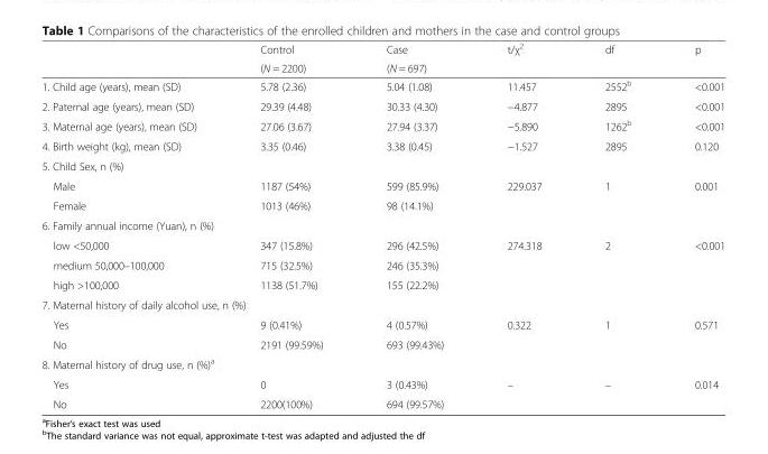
<table><thead><tr><td rowspan="2"></td><td rowspan="2">Control (N = 2200)</td><td rowspan="2">Case (N = 697)</td><td rowspan="2">t/χ<sup>2</sup></td><td rowspan="2">df</td><td rowspan="2">p</td></tr><tr></tr></thead><tbody><tr><td>1. Child age (years), mean (SD)</td><td>5.78 (2.36)</td><td>5.04 (1.08)</td><td>11.457</td><td>2552<sup>b</sup></td><td>&lt;0.001</td></tr><tr><td>2. Paternal age (years), mean (SD)</td><td>29.39 (4.48)</td><td>30.33 (4.30)</td><td>−4.877</td><td>2895</td><td>&lt;0.001</td></tr><tr><td>3. Maternal age (years), mean (SD)</td><td>27.06 (3.67)</td><td>27.94 (3.37)</td><td>−5.890</td><td>1262<sup>b</sup></td><td>&lt;0.001</td></tr><tr><td>4. Birth weight (kg), mean (SD)</td><td>3.35 (0.46)</td><td>3.38 (0.45)</td><td>−1.527</td><td>2895</td><td>0.120</td></tr><tr><td colspan="6">5. Child Sex, n (%)</td></tr><tr><td>Male</td><td>1187 (54%)</td><td>599 (85.9%)</td><td>229.037</td><td>1</td><td>0.001</td></tr><tr><td>Female</td><td>1013 (46%)</td><td>98 (14.1%)</td><td></td><td></td><td></td></tr><tr><td colspan="6">6. Family annual income (Yuan), n (%)</td></tr><tr><td>low &lt;50,000</td><td>347 (15.8%)</td><td>296 (42.5%)</td><td>274.318</td><td>2</td><td>&lt;0.001</td></tr><tr><td>medium 50,000–100,000</td><td>715 (32.5%)</td><td>246 (35.3%)</td><td></td><td></td><td></td></tr><tr><td>high &gt;100,000</td><td>1138 (51.7%)</td><td>155 (22.2%)</td><td></td><td></td><td></td></tr><tr><td colspan="6">7. Maternal history of daily alcohol use, n (%)</td></tr><tr><td>Yes</td><td>9 (0.41%)</td><td>4 (0.57%)</td><td>0.322</td><td>1</td><td>0.571</td></tr><tr><td>No</td><td>2191 (99.59%)</td><td>693 (99.43%)</td><td></td><td></td><td></td></tr><tr><td colspan="6">8. Maternal history of drug use, n (%)<sup>a</sup></td></tr><tr><td>Yes</td><td>0</td><td>3 (0.43%)</td><td>–</td><td>–</td><td>0.014</td></tr><tr><td>No</td><td>2200(100%)</td><td>694 (99.57%)</td><td></td><td></td><td></td></tr></tbody></table>